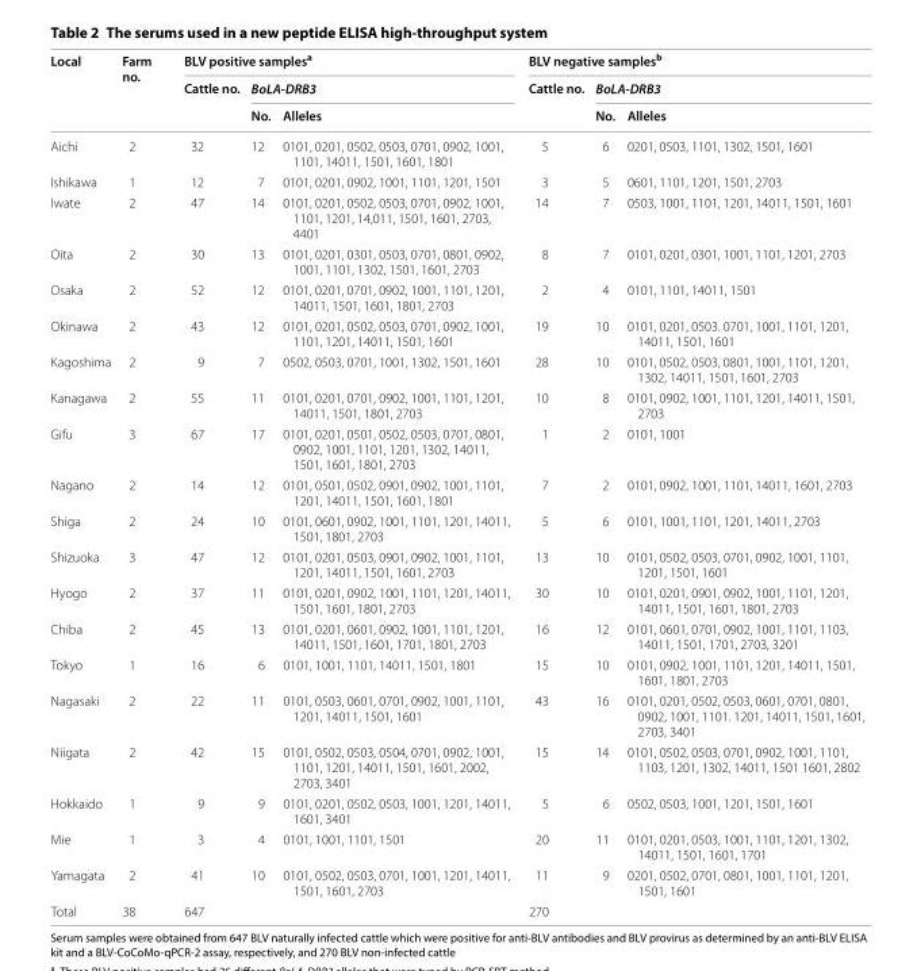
<table><thead><tr><td rowspan="3">Local</td><td rowspan="3">Farm no.</td><td colspan="3">BLV positive samples<sup>a</sup></td><td colspan="3">BLV negative samples<sup>b</sup></td></tr><tr><td rowspan="2">Cattle no.</td><td colspan="2">BoLA‑DRB3</td><td rowspan="2">Cattle no.</td><td colspan="2">BoLA‑DRB3</td></tr><tr><td>No.</td><td>Alleles</td><td>No.</td><td>Alleles</td></tr></thead><tbody><tr><td>Aichi</td><td>2</td><td>32</td><td>12</td><td>0101, 0201, 0502, 0503, 0701, 0902, 1001, 1101, 14011, 1501, 1601, 1801</td><td>5</td><td>6</td><td>0201, 0503, 1101, 1302, 1501, 1601</td></tr><tr><td>Ishikawa</td><td>1</td><td>12</td><td>7</td><td>0101, 0201, 0902, 1001, 1101, 1201, 1501</td><td>3</td><td>5</td><td>0601, 1101, 1201, 1501, 2703</td></tr><tr><td>Iwate</td><td>2</td><td>47</td><td>14</td><td>0101, 0201, 0502, 0503, 0701, 0902, 1001, 1101, 1201, 14,011, 1501, 1601, 2703, 4401</td><td>14</td><td>7</td><td>0503, 1001, 1101, 1201, 14011, 1501, 1601</td></tr><tr><td>Oita</td><td>2</td><td>30</td><td>13</td><td>0101, 0201, 0301, 0503, 0701, 0801, 0902, 1001, 1101, 1302, 1501, 1601, 2703</td><td>8</td><td>7</td><td>0101, 0201, 0301, 1001, 1101, 1201, 2703</td></tr><tr><td>Osaka</td><td>2</td><td>52</td><td>12</td><td>0101, 0201, 0701, 0902, 1001, 1101, 1201, 14011, 1501, 1601, 1801, 2703</td><td>2</td><td>4</td><td>0101, 1101, 14011, 1501</td></tr><tr><td>Okinawa</td><td>2</td><td>43</td><td>12</td><td>0101, 0201, 0502, 0503, 0701, 0902, 1001, 1101, 1201, 14011, 1501, 1601</td><td>19</td><td>10</td><td>0101, 0201, 0503. 0701, 1001, 1101, 1201, 14011, 1501, 1601</td></tr><tr><td>Kagoshima</td><td>2</td><td>9</td><td>7</td><td>0502, 0503, 0701, 1001, 1302, 1501, 1601</td><td>28</td><td>10</td><td>0101, 0502, 0503, 0801, 1001, 1101, 1201, 1302, 14011, 1501, 1601, 2703</td></tr><tr><td>Kanagawa</td><td>2</td><td>55</td><td>11</td><td>0101, 0201, 0701, 0902, 1001, 1101, 1201, 14011, 1501, 1801, 2703</td><td>10</td><td>8</td><td>0101, 0902, 1001, 1101, 1201, 14011, 1501, 2703</td></tr><tr><td>Gifu</td><td>3</td><td>67</td><td>17</td><td>0101, 0201, 0501, 0502, 0503, 0701, 0801, 0902, 1001, 1101, 1201, 1302, 14011, 1501, 1601, 1801, 2703</td><td>1</td><td>2</td><td>0101, 1001</td></tr><tr><td>Nagano</td><td>2</td><td>14</td><td>12</td><td>0101, 0501, 0502, 0901, 0902, 1001, 1101, 1201, 14011, 1501, 1601, 1801</td><td>7</td><td>2</td><td>0101, 0902, 1001, 1101, 14011, 1601, 2703</td></tr><tr><td>Shiga</td><td>2</td><td>24</td><td>10</td><td>0101, 0601, 0902, 1001, 1101, 1201, 14011, 1501, 1801, 2703</td><td>5</td><td>6</td><td>0101, 1001, 1101, 1201, 14011, 2703</td></tr><tr><td>Shizuoka</td><td>3</td><td>47</td><td>12</td><td>0101, 0201, 0503, 0901, 0902, 1001, 1101, 1201, 14011, 1501, 1601, 2703</td><td>13</td><td>10</td><td>0101, 0502, 0503, 0701, 0902, 1001, 1101, 1201, 1501, 1601</td></tr><tr><td>Hyogo</td><td>2</td><td>37</td><td>11</td><td>0101, 0201, 0902, 1001, 1101, 1201, 14011, 1501, 1601, 1801, 2703</td><td>30</td><td>10</td><td>0101, 0201, 0901, 0902, 1001, 1101, 1201, 14011, 1501, 1601, 1801, 2703</td></tr><tr><td>Chiba</td><td>2</td><td>45</td><td>13</td><td>0101, 0201, 0601, 0902, 1001, 1101, 1201, 14011, 1501, 1601, 1701, 1801, 2703</td><td>16</td><td>12</td><td>0101, 0601, 0701, 0902, 1001, 1101, 1103, 14011, 1501, 1701, 2703, 3201</td></tr><tr><td>Tokyo</td><td>1</td><td>16</td><td>6</td><td>0101, 1001, 1101, 14011, 1501, 1801</td><td>15</td><td>10</td><td>0101, 0902, 1001, 1101, 1201, 14011, 1501, 1601, 1801, 2703</td></tr><tr><td>Nagasaki</td><td>2</td><td>22</td><td>11</td><td>0101, 0503, 0601, 0701, 0902, 1001, 1101, 1201, 14011, 1501, 1601</td><td>43</td><td>16</td><td>0101, 0201, 0502, 0503, 0601, 0701, 0801, 0902, 1001, 1101. 1201, 14011, 1501, 1601, 2703, 3401</td></tr><tr><td>Niigata</td><td>2</td><td>42</td><td>15</td><td>0101, 0502, 0503, 0504, 0701, 0902, 1001, 1101, 1201, 14011, 1501, 1601, 2002, 2703, 3401</td><td>15</td><td>14</td><td>0101, 0502, 0503, 0701, 0902, 1001, 1101, 1103, 1201, 1302, 14011, 1501 1601, 2802</td></tr><tr><td>Hokkaido</td><td>1</td><td>9</td><td>9</td><td>0101, 0201, 0502, 0503, 1001, 1201, 14011, 1601, 3401</td><td>5</td><td>6</td><td>0502, 0503, 1001, 1201, 1501, 1601</td></tr><tr><td>Mie</td><td>1</td><td>3</td><td>4</td><td>0101, 1001, 1101, 1501</td><td>20</td><td>11</td><td>0101, 0201, 0503, 1001, 1101, 1201, 1302, 14011, 1501, 1601, 1701</td></tr><tr><td>Yamagata</td><td>2</td><td>41</td><td>10</td><td>0101, 0502, 0503, 0701, 1001, 1201, 14011, 1501, 1601, 2703</td><td>11</td><td>9</td><td>0201, 0502, 0701, 0801, 1001, 1101, 1201, 1501, 1601</td></tr><tr><td>Total</td><td>38</td><td>647</td><td></td><td></td><td>270</td><td></td><td></td></tr></tbody></table>